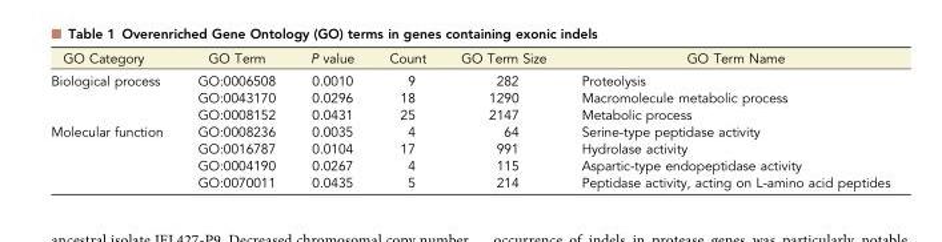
<table><thead><tr><td>GO Category</td><td>GO Term</td><td>P value</td><td>Count</td><td>GO Term Size</td><td>GO Term Name</td></tr></thead><tbody><tr><td rowspan="3">Biological process</td><td>GO:0006508</td><td>0.0010</td><td>9</td><td>282</td><td>Proteolysis</td></tr><tr><td>GO:0043170</td><td>0.0296</td><td>18</td><td>1290</td><td>Macromolecule metabolic process</td></tr><tr><td>GO:0008152</td><td>0.0431</td><td>25</td><td>2147</td><td>Metabolic process</td></tr><tr><td rowspan="4">Molecular function</td><td>GO:0008236</td><td>0.0035</td><td>4</td><td>64</td><td>Serine-type peptidase activity</td></tr><tr><td>GO:0016787</td><td>0.0104</td><td>17</td><td>991</td><td>Hydrolase activity</td></tr><tr><td>GO:0004190</td><td>0.0267</td><td>4</td><td>115</td><td>Aspartic-type endopeptidase activity</td></tr><tr><td>GO:0070011</td><td>0.0435</td><td>5</td><td>214</td><td>Peptidase activity, acting on L-amino acid peptides</td></tr></tbody></table>